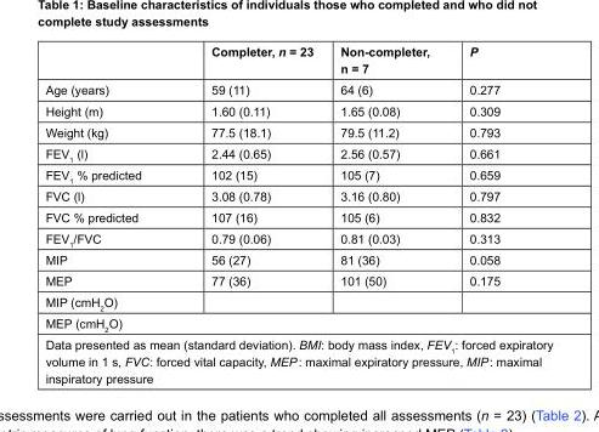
<table><thead><tr><td></td><td>Completer, n = 23</td><td>Non-completer, n = 7</td><td>P</td></tr></thead><tbody><tr><td>Age (years)</td><td>59 (11)</td><td>64 (6)</td><td>0.277</td></tr><tr><td>Height (m)</td><td>1.60 (0.11)</td><td>1.65 (0.08)</td><td>0.309</td></tr><tr><td>Weight (kg)</td><td>77.5 (18.1)</td><td>79.5 (11.2)</td><td>0.793</td></tr><tr><td>FEV<sub>1</sub> (l)</td><td>2.44 (0.65)</td><td>2.56 (0.57)</td><td>0.661</td></tr><tr><td>FEV<sub>1</sub> % predicted</td><td>102 (15)</td><td>105 (7)</td><td>0.659</td></tr><tr><td>FVC (l)</td><td>3.08 (0.78)</td><td>3.16 (0.80)</td><td>0.797</td></tr><tr><td>FVC % predicted</td><td>107 (16)</td><td>105 (6)</td><td>0.832</td></tr><tr><td>FEV<sub>1</sub>/FVC</td><td>0.79 (0.06)</td><td>0.81 (0.03)</td><td>0.313</td></tr><tr><td>MIP</td><td>56 (27)</td><td>81 (36)</td><td>0.058</td></tr><tr><td>MEP</td><td>77 (36)</td><td>101 (50)</td><td>0.175</td></tr><tr><td colspan="4">MIP (cmH<sub>2</sub>O)</td></tr><tr><td colspan="4">MEP (cmH<sub>2</sub>O)</td></tr><tr><td colspan="4">Data presented as mean (standard deviation). BMI: body mass index, FEV<sub>1</sub>: forced expiratory volume in 1 s, FVC: forced vital capacity, MEP : maximal expiratory pressure, MIP : maximal inspiratory pressure</td></tr></tbody></table>